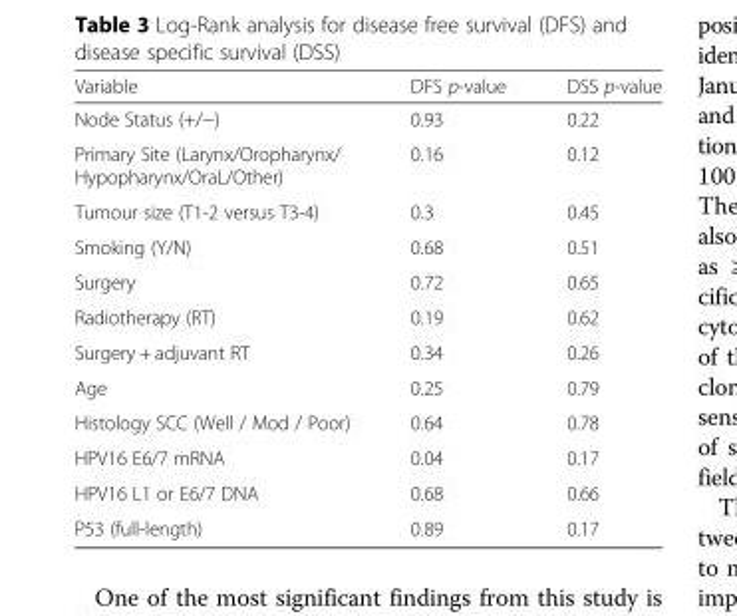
<table><thead><tr><td>Variable</td><td>DFS p-value</td><td>DSS p-value</td></tr></thead><tbody><tr><td>Node Status (+/−)</td><td>0.93</td><td>0.22</td></tr><tr><td>Primary Site (Larynx/Oropharynx/ Hypopharynx/OraL/Other)</td><td>0.16</td><td>0.12</td></tr><tr><td>Tumour size (T1-2 versus T3-4)</td><td>0.3</td><td>0.45</td></tr><tr><td>Smoking (Y/N)</td><td>0.68</td><td>0.51</td></tr><tr><td>Surgery</td><td>0.72</td><td>0.65</td></tr><tr><td>Radiotherapy (RT)</td><td>0.19</td><td>0.62</td></tr><tr><td>Surgery + adjuvant RT</td><td>0.34</td><td>0.26</td></tr><tr><td>Age</td><td>0.25</td><td>0.79</td></tr><tr><td>Histology SCC (Well / Mod / Poor)</td><td>0.64</td><td>0.78</td></tr><tr><td>HPV16 E6/7 mRNA</td><td>0.04</td><td>0.17</td></tr><tr><td>HPV16 L1 or E6/7 DNA</td><td>0.68</td><td>0.66</td></tr><tr><td>P53 (full-length)</td><td>0.89</td><td>0.17</td></tr></tbody></table>